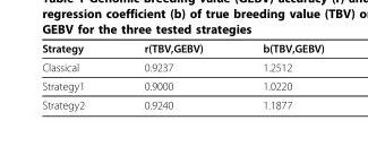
<table><thead><tr><td>Strategy</td><td>r(TBV,GEBV)</td><td>b(TBV,GEBV)</td></tr></thead><tbody><tr><td>Classical</td><td>0.9237</td><td>1.2512</td></tr><tr><td>Strategy1</td><td>0.9000</td><td>1.0220</td></tr><tr><td>Strategy2</td><td>0.9240</td><td>1.1877</td></tr></tbody></table>